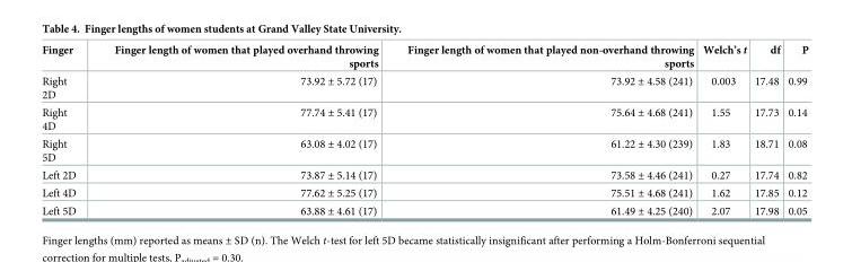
<table><thead><tr><td>Finger</td><td>Finger length of women that played overhand throwing sports</td><td>Finger length of women that played non-overhand throwing sports</td><td>Welch’s t</td><td>df</td><td>P</td></tr></thead><tbody><tr><td>Right 2D</td><td>73.92 ± 5.72 (17)</td><td>73.92 ± 4.58 (241)</td><td>0.003</td><td>17.48</td><td>0.99</td></tr><tr><td>Right 4D</td><td>77.74 ± 5.41 (17)</td><td>75.64 ± 4.68 (241)</td><td>1.55</td><td>17.73</td><td>0.14</td></tr><tr><td>Right 5D</td><td>63.08 ± 4.02 (17)</td><td>61.22 ± 4.30 (239)</td><td>1.83</td><td>18.71</td><td>0.08</td></tr><tr><td>Left 2D</td><td>73.87 ± 5.14 (17)</td><td>73.58 ± 4.46 (241)</td><td>0.27</td><td>17.74</td><td>0.82</td></tr><tr><td>Left 4D</td><td>77.62 ± 5.25 (17)</td><td>75.51 ± 4.68 (241)</td><td>1.62</td><td>17.85</td><td>0.12</td></tr><tr><td>Left 5D</td><td>63.88 ± 4.61 (17)</td><td>61.49 ± 4.25 (240)</td><td>2.07</td><td>17.98</td><td>0.05</td></tr></tbody></table>